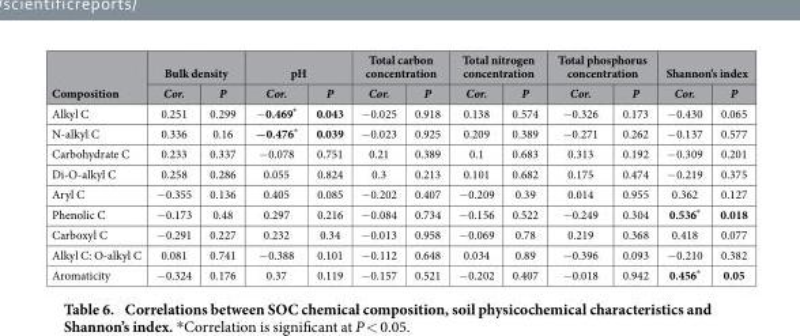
<table><thead><tr><td rowspan="2">Composition</td><td colspan="2">Bulk density</td><td colspan="2">pH</td><td colspan="2">Total carbon concentration</td><td colspan="2">Total nitrogen concentration</td><td colspan="2">Total phosphorus concentration</td><td colspan="2">Shannon’s index</td></tr><tr><td>Cor.</td><td>P</td><td>Cor.</td><td>P</td><td>Cor.</td><td>P</td><td>Cor.</td><td>P</td><td>Cor.</td><td>P</td><td>Cor.</td><td>P</td></tr></thead><tbody><tr><td>Alkyl C</td><td>0.251</td><td>0.299</td><td>− 0.469*</td><td>0.043</td><td>− 0.025</td><td>0.918</td><td>0.138</td><td>0.574</td><td>− 0.326</td><td>0.173</td><td>− 0.430</td><td>0.065</td></tr><tr><td>N-alkyl C</td><td>0.336</td><td>0.16</td><td>−0.476*</td><td>0.039</td><td>− 0.023</td><td>0.925</td><td>0.209</td><td>0.389</td><td>− 0.271</td><td>0.262</td><td>− 0.137</td><td>0.577</td></tr><tr><td>Carbohydrate C</td><td>0.233</td><td>0.337</td><td>− 0.078</td><td>0.751</td><td>0.21</td><td>0.389</td><td>0.1</td><td>0.683</td><td>0.313</td><td>0.192</td><td>− 0.309</td><td>0.201</td></tr><tr><td>Di-O-alkyl C</td><td>0.258</td><td>0.286</td><td>0.055</td><td>0.824</td><td>0.3</td><td>0.213</td><td>0.101</td><td>0.682</td><td>0.175</td><td>0.474</td><td>− 0.219</td><td>0.375</td></tr><tr><td>Aryl C</td><td>− 0.355</td><td>0.136</td><td>0.405</td><td>0.085</td><td>− 0.202</td><td>0.407</td><td>− 0.209</td><td>0.39</td><td>0.014</td><td>0.955</td><td>0.362</td><td>0.127</td></tr><tr><td>Phenolic C</td><td>− 0.173</td><td>0.48</td><td>0.297</td><td>0.216</td><td>− 0.084</td><td>0.734</td><td>− 0.156</td><td>0.522</td><td>− 0.249</td><td>0.304</td><td>0.536*</td><td>0.018</td></tr><tr><td>Carboxyl C</td><td>− 0.291</td><td>0.227</td><td>0.232</td><td>0.34</td><td>− 0.013</td><td>0.958</td><td>− 0.069</td><td>0.78</td><td>0.219</td><td>0.368</td><td>0.418</td><td>0.077</td></tr><tr><td>Alkyl C: O-alkyl C</td><td>0.081</td><td>0.741</td><td>− 0.388</td><td>0.101</td><td>− 0.112</td><td>0.648</td><td>0.034</td><td>0.89</td><td>− 0.396</td><td>0.093</td><td>− 0.210</td><td>0.382</td></tr><tr><td>Aromaticity</td><td>− 0.324</td><td>0.176</td><td>0.37</td><td>0.119</td><td>− 0.157</td><td>0.521</td><td>− 0.202</td><td>0.407</td><td>− 0.018</td><td>0.942</td><td>0.456*</td><td>0.05</td></tr></tbody></table>